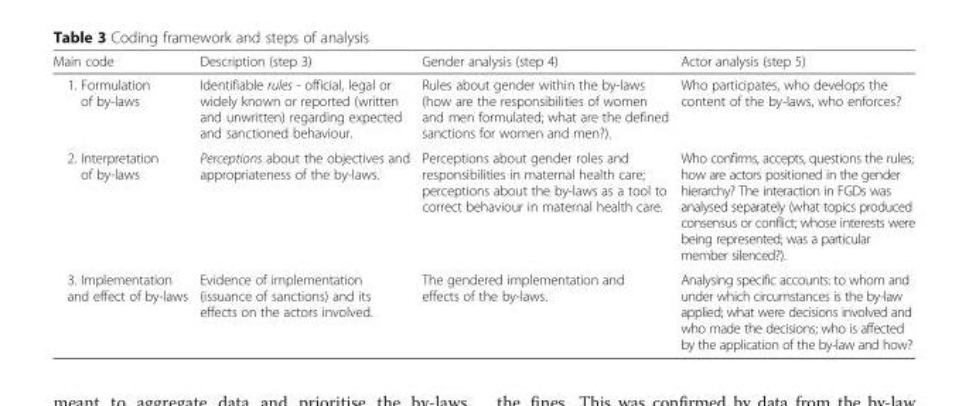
<table><thead><tr><td>Main code</td><td>Description (step 3)</td><td>Gender analysis (step 4)</td><td>Actor analysis (step 5)</td></tr></thead><tbody><tr><td>1. Formulation of by-laws</td><td>Identifiable rules - official, legal or widely known or reported (written and unwritten) regarding expected and sanctioned behaviour.</td><td>Rules about gender within the by-laws (how are the responsibilities of women and men formulated; what are the defined sanctions for women and men?).</td><td>Who participates, who develops the content of the by-laws, who enforces?</td></tr><tr><td>2. Interpretation of by-laws</td><td>Perceptions about the objectives and appropriateness of the by-laws.</td><td>Perceptions about gender roles and responsibilities in maternal health care; perceptions about the by-laws as a tool to correct behaviour in maternal health care.</td><td>Who confirms, accepts, questions the rules; how are actors positioned in the gender hierarchy? The interaction in FGDs was analysed separately (what topics produced consensus or conflict; whose interests were being represented; was a particular member silenced?).</td></tr><tr><td>3. Implementation and effect of by-laws</td><td>Evidence of implementation (issuance of sanctions) and its effects on the actors involved.</td><td>The gendered implementation and effects of the by-laws.</td><td>Analysing specific accounts: to whom and under which circumstances is the by-law applied; what were decisions involved and who made the decisions; who is affected by the application of the by-law and how?</td></tr></tbody></table>